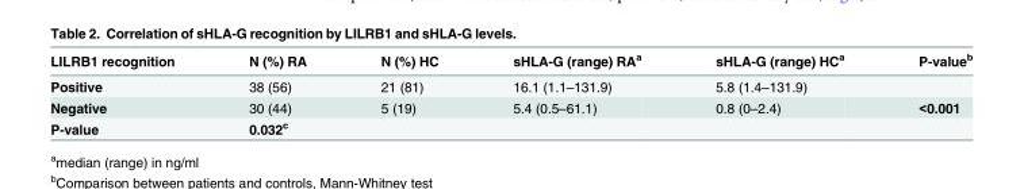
<table><thead><tr><td>LILRB1 recognition</td><td>N (%) RA</td><td>N (%) HC</td><td>sHLA-G (range) RA<sup>a</sup></td><td>sHLA-G (range) HC<sup>a</sup></td><td>P-value<sup>b</sup></td></tr></thead><tbody><tr><td>Positive</td><td>38 (56)</td><td>21 (81)</td><td>16.1 (1.1–131.9)</td><td>5.8 (1.4–131.9)</td><td></td></tr><tr><td>Negative</td><td>30 (44)</td><td>5 (19)</td><td>5.4 (0.5–61.1)</td><td>0.8 (0–2.4)</td><td>&lt;0.001</td></tr><tr><td>P-value</td><td>0.032<sup>c</sup></td><td></td><td></td><td></td><td></td></tr></tbody></table>